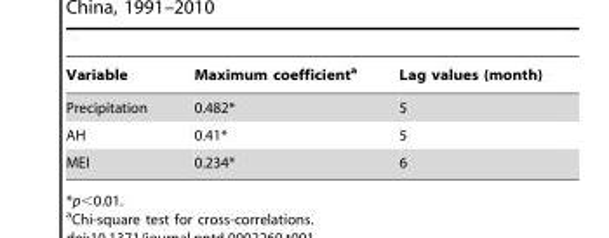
<table><thead><tr><td>Variable</td><td>Maximum coefficient<sup>a</sup></td><td>Lag values (month)</td></tr></thead><tbody><tr><td>Precipitation</td><td>0.482*</td><td>5</td></tr><tr><td>AH</td><td>0.41*</td><td>5</td></tr><tr><td>MEI</td><td>0.234*</td><td>6</td></tr></tbody></table>